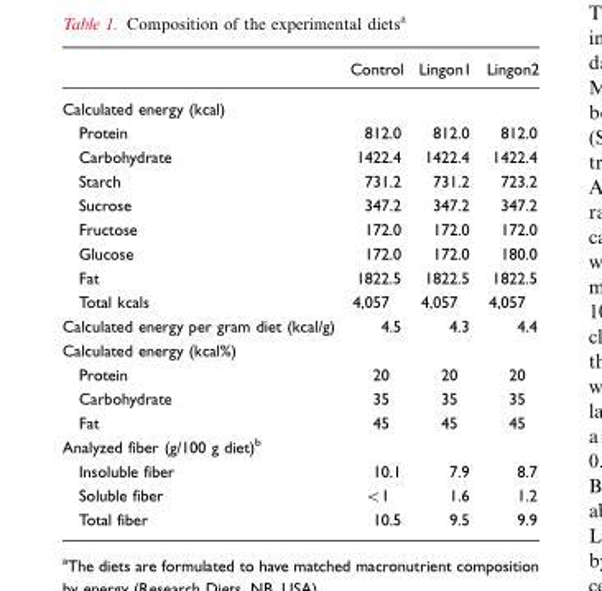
<table><thead><tr><td></td><td>Control</td><td>Lingon1</td><td>Lingon2</td></tr></thead><tbody><tr><td colspan="4">Calculated energy (kcal)</td></tr><tr><td>Protein</td><td>812.0</td><td>812.0</td><td>812.0</td></tr><tr><td>Carbohydrate</td><td>1422.4</td><td>1422.4</td><td>1422.4</td></tr><tr><td>Starch</td><td>731.2</td><td>731.2</td><td>723.2</td></tr><tr><td>Sucrose</td><td>347.2</td><td>347.2</td><td>347.2</td></tr><tr><td>Fructose</td><td>172.0</td><td>172.0</td><td>172.0</td></tr><tr><td>Glucose</td><td>172.0</td><td>172.0</td><td>180.0</td></tr><tr><td>Fat</td><td>1822.5</td><td>1822.5</td><td>1822.5</td></tr><tr><td>Total kcals</td><td>4,057</td><td>4,057</td><td>4,057</td></tr><tr><td>Calculated energy per gram diet (kcal/g)</td><td>4.5</td><td>4.3</td><td>4.4</td></tr><tr><td colspan="4">Calculated energy (kcal%)</td></tr><tr><td>Protein</td><td>20</td><td>20</td><td>20</td></tr><tr><td>Carbohydrate</td><td>35</td><td>35</td><td>35</td></tr><tr><td>Fat</td><td>45</td><td>45</td><td>45</td></tr><tr><td colspan="4">Analyzed fiber (g/100 g diet)<sup>b</sup></td></tr><tr><td>Insoluble fiber</td><td>10.1</td><td>7.9</td><td>8.7</td></tr><tr><td>Soluble fiber</td><td>&lt;1</td><td>1.6</td><td>1.2</td></tr><tr><td>Total fiber</td><td>10.5</td><td>9.5</td><td>9.9</td></tr></tbody></table>